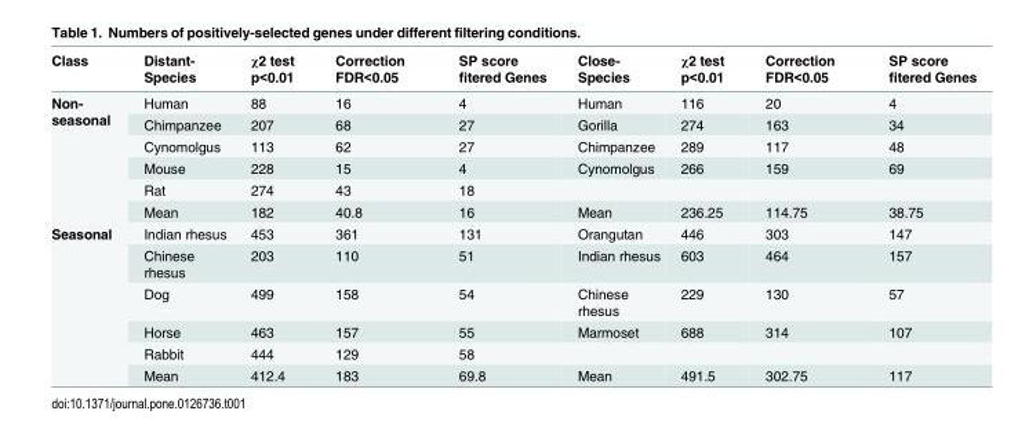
<table><thead><tr><td>Class</td><td>Distant- Species</td><td>χ2 test p&lt;0.01</td><td>Correction FDR&lt;0.05</td><td>SP score fitered Genes</td><td>Close- Species</td><td>χ2 test p&lt;0.01</td><td>Correction FDR&lt;0.05</td><td>SP score fitered Genes</td></tr></thead><tbody><tr><td rowspan="6">Non- seasonal</td><td>Human</td><td>88</td><td>16</td><td>4</td><td>Human</td><td>116</td><td>20</td><td>4</td></tr><tr><td>Chimpanzee</td><td>207</td><td>68</td><td>27</td><td>Gorilla</td><td>274</td><td>163</td><td>34</td></tr><tr><td>Cynomolgus</td><td>113</td><td>62</td><td>27</td><td>Chimpanzee</td><td>289</td><td>117</td><td>48</td></tr><tr><td>Mouse</td><td>228</td><td>15</td><td>4</td><td>Cynomolgus</td><td>266</td><td>159</td><td>69</td></tr><tr><td>Rat</td><td>274</td><td>43</td><td>18</td><td></td><td></td><td></td><td></td></tr><tr><td>Mean</td><td>182</td><td>40.8</td><td>16</td><td>Mean</td><td>236.25</td><td>114.75</td><td>38.75</td></tr><tr><td rowspan="6">Seasonal</td><td>Indian rhesus</td><td>453</td><td>361</td><td>131</td><td>Orangutan</td><td>446</td><td>303</td><td>147</td></tr><tr><td>Chinese rhesus</td><td>203</td><td>110</td><td>51</td><td>Indian rhesus</td><td>603</td><td>464</td><td>157</td></tr><tr><td>Dog</td><td>499</td><td>158</td><td>54</td><td>Chinese rhesus</td><td>229</td><td>130</td><td>57</td></tr><tr><td>Horse</td><td>463</td><td>157</td><td>55</td><td>Marmoset</td><td>688</td><td>314</td><td>107</td></tr><tr><td>Rabbit</td><td>444</td><td>129</td><td>58</td><td></td><td></td><td></td><td></td></tr><tr><td>Mean</td><td>412.4</td><td>183</td><td>69.8</td><td>Mean</td><td>491.5</td><td>302.75</td><td>117</td></tr></tbody></table>